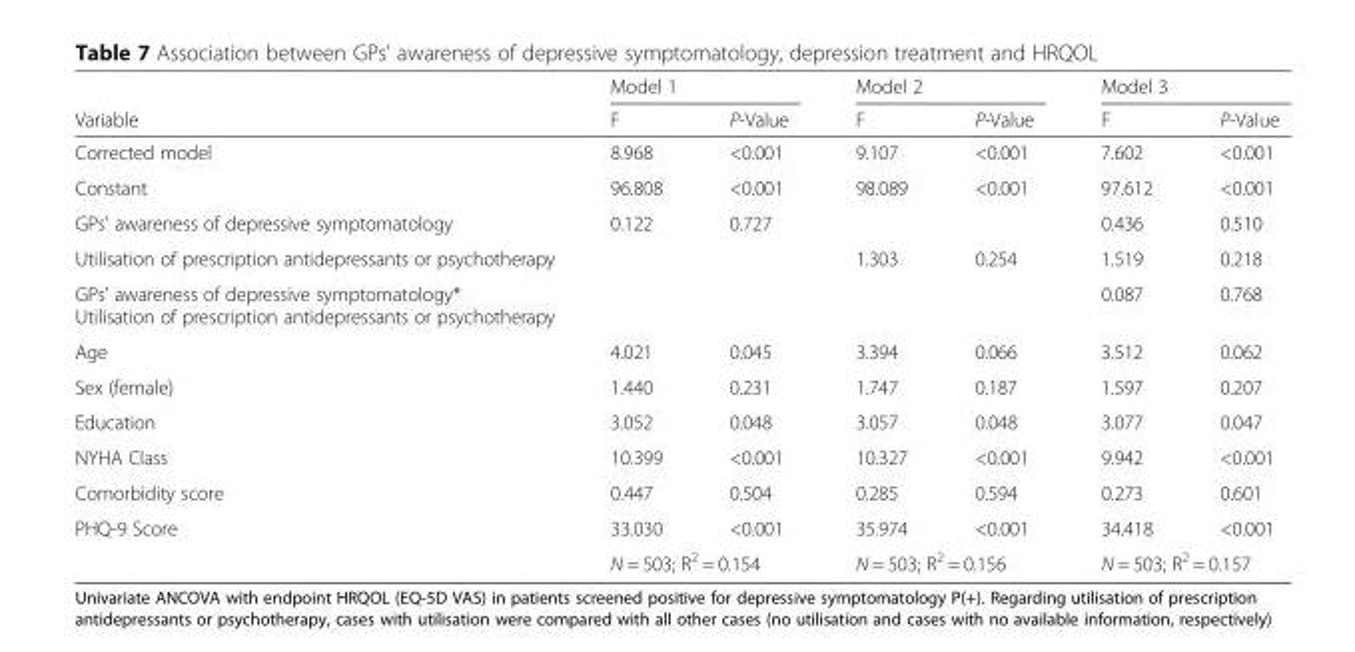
<table><thead><tr><td rowspan="2">Variable</td><td colspan="2">Model 1</td><td colspan="2">Model 2</td><td colspan="2">Model 3</td></tr><tr><td>F</td><td>P-Value</td><td>F</td><td>P-Value</td><td>F</td><td>P-Value</td></tr></thead><tbody><tr><td>Corrected model</td><td>8.968</td><td>&lt;0.001</td><td>9.107</td><td>&lt;0.001</td><td>7.602</td><td>&lt;0.001</td></tr><tr><td>Constant</td><td>96.808</td><td>&lt;0.001</td><td>98.089</td><td>&lt;0.001</td><td>97.612</td><td>&lt;0.001</td></tr><tr><td>GPs&#x27; awareness of depressive symptomatology</td><td>0.122</td><td>0.727</td><td></td><td></td><td>0.436</td><td>0.510</td></tr><tr><td>Utilisation of prescription antidepressants or psychotherapy</td><td></td><td></td><td>1.303</td><td>0.254</td><td>1.519</td><td>0.218</td></tr><tr><td>GPs&#x27; awareness of depressive symptomatology* Utilisation of prescription antidepressants or psychotherapy</td><td></td><td></td><td></td><td></td><td>0.087</td><td>0.768</td></tr><tr><td>Age</td><td>4.021</td><td>0.045</td><td>3.394</td><td>0.066</td><td>3.512</td><td>0.062</td></tr><tr><td>Sex (female)</td><td>1.440</td><td>0.231</td><td>1.747</td><td>0.187</td><td>1.597</td><td>0.207</td></tr><tr><td>Education</td><td>3.052</td><td>0.048</td><td>3.057</td><td>0.048</td><td>3.077</td><td>0.047</td></tr><tr><td>NYHA Class</td><td>10.399</td><td>&lt;0.001</td><td>10.327</td><td>&lt;0.001</td><td>9.942</td><td>&lt;0.001</td></tr><tr><td>Comorbidity score</td><td>0.447</td><td>0.504</td><td>0.285</td><td>0.594</td><td>0.273</td><td>0.601</td></tr><tr><td rowspan="2">PHQ-9 Score</td><td>33.030</td><td>&lt;0.001</td><td>35.974</td><td>&lt;0.001</td><td>34.418</td><td>&lt;0.001</td></tr><tr><td colspan="2">N = 503; R<sup>2</sup> = 0.154</td><td colspan="2">N = 503; R<sup>2</sup> = 0.156</td><td colspan="2">N = 503; R<sup>2</sup> = 0.157</td></tr></tbody></table>